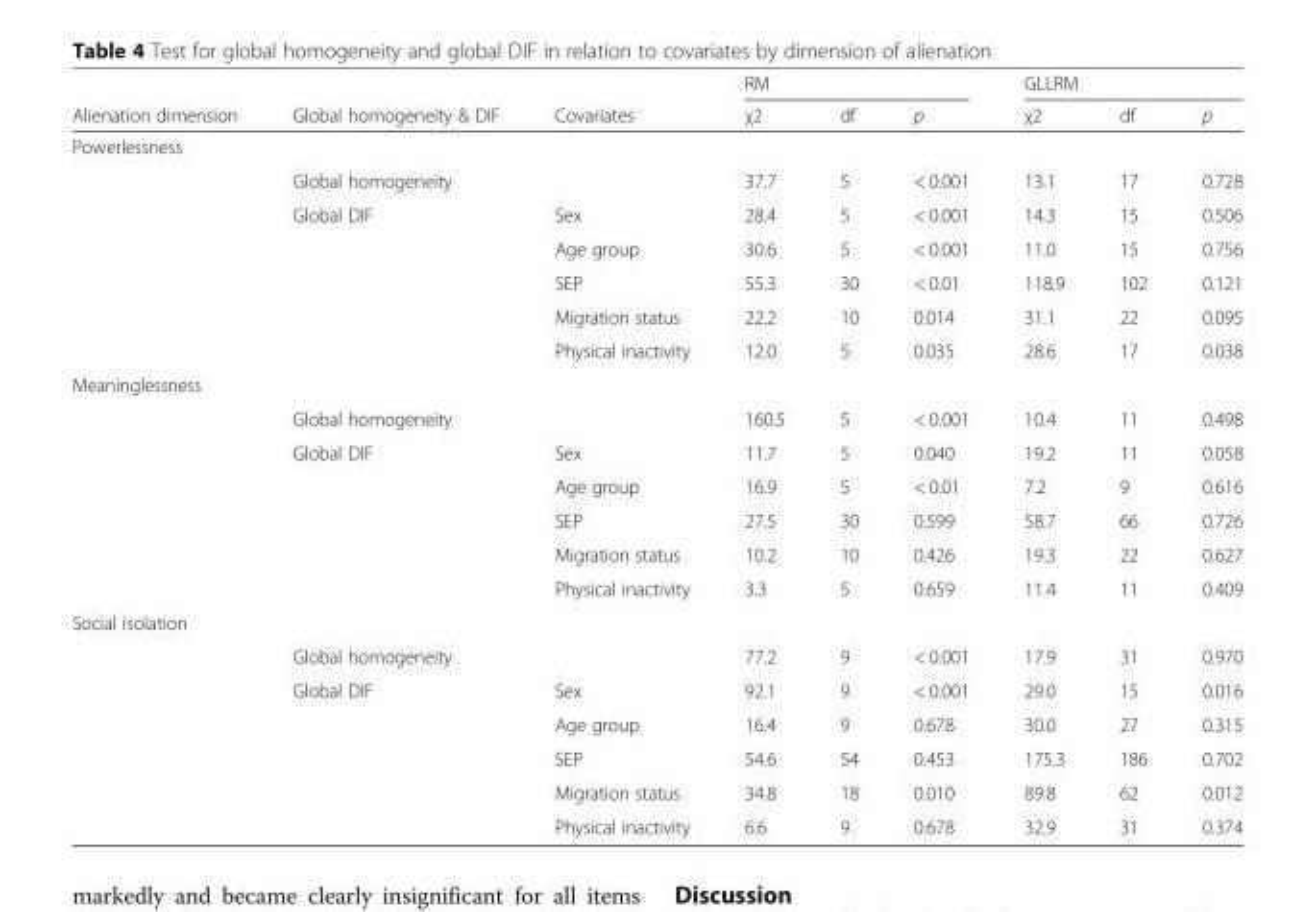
<table><thead><tr><td rowspan="2">Alienation dimension</td><td rowspan="2">Global homogeneity &amp; DIF</td><td rowspan="2">Covariates</td><td colspan="3">RM</td><td colspan="3">GLLRM</td></tr><tr><td>χ2</td><td>df</td><td>p</td><td>χ2</td><td>df</td><td>p</td></tr></thead><tbody><tr><td colspan="9">Powerlessness</td></tr><tr><td></td><td>Global homogeneity</td><td></td><td>37.7</td><td>5</td><td>&lt; 0.001</td><td>13.1</td><td>17</td><td>0.728</td></tr><tr><td></td><td>Global DIF</td><td>Sex</td><td>28.4</td><td>5</td><td>&lt; 0.001</td><td>14.3</td><td>15</td><td>0.506</td></tr><tr><td></td><td></td><td>Age group</td><td>30.6</td><td>5</td><td>&lt; 0.001</td><td>11.0</td><td>15</td><td>0.756</td></tr><tr><td></td><td></td><td>SEP</td><td>55.3</td><td>30</td><td>&lt; 0.01</td><td>118.9</td><td>102</td><td>0.121</td></tr><tr><td></td><td></td><td>Migration status</td><td>22.2</td><td>10</td><td>0.014</td><td>31.1</td><td>22</td><td>0.095</td></tr><tr><td></td><td></td><td>Physical inactivity</td><td>12.0</td><td>5</td><td>0.035</td><td>28.6</td><td>17</td><td>0.038</td></tr><tr><td colspan="9">Meaninglessness</td></tr><tr><td></td><td>Global homogeneity</td><td></td><td>160.5</td><td>5</td><td>&lt; 0.001</td><td>10.4</td><td>11</td><td>0.498</td></tr><tr><td></td><td>Global DIF</td><td>Sex</td><td>11.7</td><td>5</td><td>0.040</td><td>19.2</td><td>11</td><td>0.058</td></tr><tr><td></td><td></td><td>Age group</td><td>16.9</td><td>5</td><td>&lt; 0.01</td><td>7.2</td><td>9</td><td>0.616</td></tr><tr><td></td><td></td><td>SEP</td><td>27.5</td><td>30</td><td>0.599</td><td>58.7</td><td>66</td><td>0.726</td></tr><tr><td></td><td></td><td>Migration status</td><td>10.2</td><td>10</td><td>0.426</td><td>19.3</td><td>22</td><td>0.627</td></tr><tr><td></td><td></td><td>Physical inactivity</td><td>3.3</td><td>5</td><td>0.659</td><td>11.4</td><td>11</td><td>0.409</td></tr><tr><td colspan="9">Social isolation</td></tr><tr><td></td><td>Global homogeneity</td><td></td><td>77.2</td><td>9</td><td>&lt; 0.001</td><td>17.9</td><td>31</td><td>0.970</td></tr><tr><td></td><td>Global DIF</td><td>Sex</td><td>92.1</td><td>9</td><td>&lt; 0.001</td><td>29.0</td><td>15</td><td>0.016</td></tr><tr><td></td><td></td><td>Age group</td><td>16.4</td><td>9</td><td>0.678</td><td>30.0</td><td>27</td><td>0.315</td></tr><tr><td></td><td></td><td>SEP</td><td>54.6</td><td>54</td><td>0.453</td><td>175.3</td><td>186</td><td>0.702</td></tr><tr><td></td><td></td><td>Migration status</td><td>34.8</td><td>18</td><td>0.010</td><td>89.8</td><td>62</td><td>0.012</td></tr><tr><td></td><td></td><td>Physical inactivity</td><td>6.6</td><td>9</td><td>0.678</td><td>32.9</td><td>31</td><td>0.374</td></tr></tbody></table>